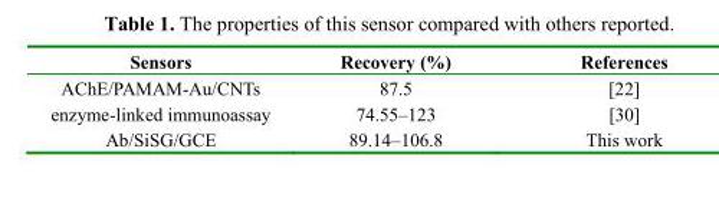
<table><thead><tr><td>Sensors</td><td>Recovery (%)</td><td>References</td></tr></thead><tbody><tr><td>AChE/PAMAM-Au/CNTs</td><td>87.5</td><td>[22]</td></tr><tr><td>enzyme-linked immunoassay</td><td>74.55–123</td><td>[30]</td></tr><tr><td>Ab/SiSG/GCE</td><td>89.14–106.8</td><td>This work</td></tr></tbody></table>